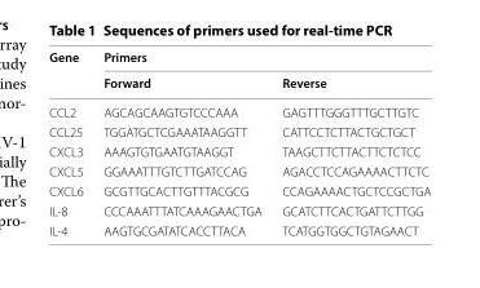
<table><thead><tr><td rowspan="2">Gene</td><td colspan="2">Primers</td></tr><tr><td>Forward</td><td>Reverse</td></tr></thead><tbody><tr><td>CCL2</td><td>AGCAGCAAGTGTCCCAAA</td><td>GAGTTTGGGTTTGCTTGTC</td></tr><tr><td>CCL25</td><td>TGGATGCTCGAAATAAGGTT</td><td>CATTCCTCTTACTGCTGCT</td></tr><tr><td>CXCL3</td><td>AAAGTGTGAATGTAAGGT</td><td>TAAGCTTCTTACTTCTCTCC</td></tr><tr><td>CXCL5</td><td>GGAAATTTGTCTTGATCCAG</td><td>AGACCTCCAGAAAACTTCTC</td></tr><tr><td>CXCL6</td><td>GCGTTGCACTTGTTTACGCG</td><td>CCAGAAAACTGCTCCGCTGA</td></tr><tr><td>IL‑8</td><td>CCCAAATTTATCAAAGAACTGA</td><td>GCATCTTCACTGATTCTTGG</td></tr><tr><td>IL‑4</td><td>AAGTGCGATATCACCTTACA</td><td>TCATGGTGGCTGTAGAACT</td></tr></tbody></table>